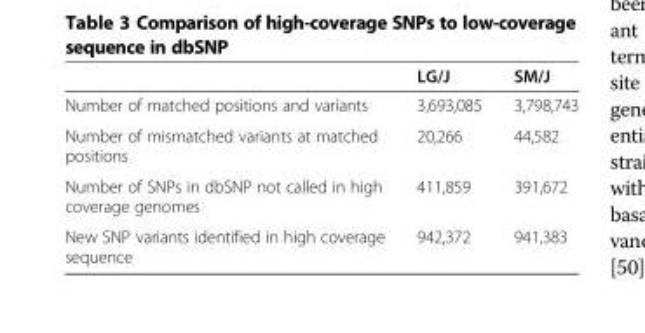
<table><thead><tr><td></td><td>LG/J</td><td>SM/J</td></tr></thead><tbody><tr><td>Number of matched positions and variants</td><td>3,693,085</td><td>3,798,743</td></tr><tr><td>Number of mismatched variants at matched positions</td><td>20,266</td><td>44,582</td></tr><tr><td>Number of SNPs in dbSNP not called in high coverage genomes</td><td>411,859</td><td>391,672</td></tr><tr><td>New SNP variants identified in high coverage sequence</td><td>942,372</td><td>941,383</td></tr></tbody></table>